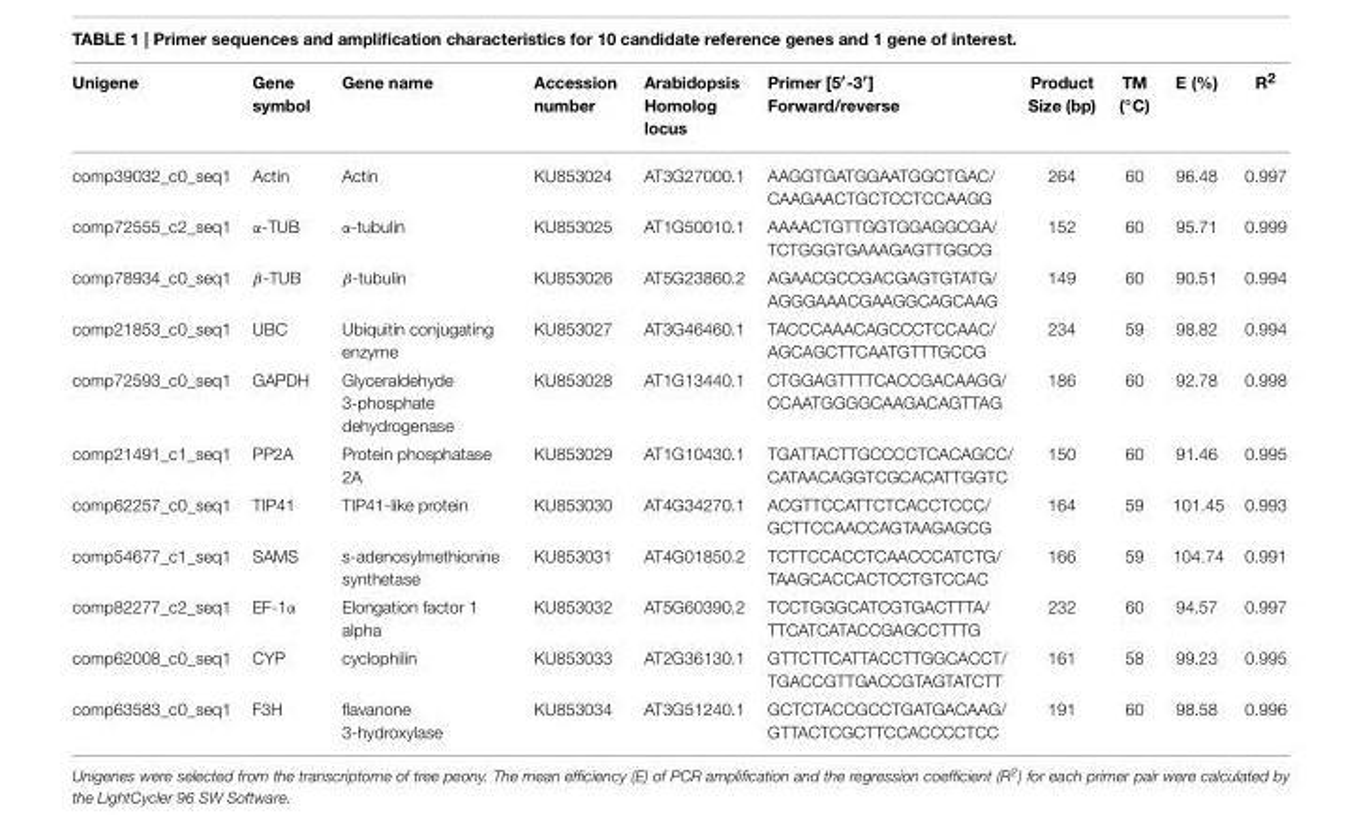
<table><thead><tr><td>Unigene</td><td>Gene symbol</td><td>Gene name</td><td>Accession number</td><td>Arabidopsis Homolog locus</td><td>Primer [5′-3′] Forward/reverse</td><td>Product Size (bp)</td><td>TM (◦C)</td><td>E (%)</td><td>R<sup>2</sup></td></tr></thead><tbody><tr><td>comp39032_c0_seq1</td><td>Actin</td><td>Actin</td><td>KU853024</td><td>AT3G27000.1</td><td>AAGGTGATGGAATGGCTGAC/ CAAGAACTGCTCCTCCAAGG</td><td>264</td><td>60</td><td>96.48</td><td>0.997</td></tr><tr><td>comp72555_c2_seq1</td><td>α-TUB</td><td>α-tubulin</td><td>KU853025</td><td>AT1G50010.1</td><td>AAAACTGTTGGTGGAGGCGA/ TCTGGGTGAAAGAGTTGGCG</td><td>152</td><td>60</td><td>95.71</td><td>0.999</td></tr><tr><td>comp78934_c0_seq1</td><td>β-TUB</td><td>β-tubulin</td><td>KU853026</td><td>AT5G23860.2</td><td>AGAACGCCGACGAGTGTATG/ AGGGAAACGAAGGCAGCAAG</td><td>149</td><td>60</td><td>90.51</td><td>0.994</td></tr><tr><td>comp21853_c0_seq1</td><td>UBC</td><td>Ubiquitin conjugating enzyme</td><td>KU853027</td><td>AT3G46460.1</td><td>TACCCAAACAGCCCTCCAAC/ AGCAGCTTCAATGTTTGCCG</td><td>234</td><td>59</td><td>98.82</td><td>0.994</td></tr><tr><td>comp72593_c0_seq1</td><td>GAPDH</td><td>Glyceraldehyde 3-phosphate dehydrogenase</td><td>KU853028</td><td>AT1G13440.1</td><td>CTGGAGTTTTCACCGACAAGG/ CCAATGGGGCAAGACAGTTAG</td><td>186</td><td>60</td><td>92.78</td><td>0.998</td></tr><tr><td>comp21491_c1_seq1</td><td>PP2A</td><td>Protein phosphatase 2A</td><td>KU853029</td><td>AT1G10430.1</td><td>TGATTACTTGCCCCTCACAGCC/ CATAACAGGTCGCACATTGGTC</td><td>150</td><td>60</td><td>91.46</td><td>0.995</td></tr><tr><td>comp62257_c0_seq1</td><td>TIP41</td><td>TIP41-like protein</td><td>KU853030</td><td>AT4G34270.1</td><td>ACGTTCCATTCTCACCTCCC/ GCTTCCAACCAGTAAGAGCG</td><td>164</td><td>59</td><td>101.45</td><td>0.993</td></tr><tr><td>comp54677_c1_seq1</td><td>SAMS</td><td>s-adenosylmethionine synthetase</td><td>KU853031</td><td>AT4G01850.2</td><td>TCTTCCACCTCAACCCATCTG/ TAAGCACCACTCCTGTCCAC</td><td>166</td><td>59</td><td>104.74</td><td>0.991</td></tr><tr><td>comp82277_c2_seq1</td><td>EF-1α</td><td>Elongation factor 1 alpha</td><td>KU853032</td><td>AT5G60390.2</td><td>TCCTGGGCATCGTGACTTTA/ TTCATCATACCGAGCCTTTG</td><td>232</td><td>60</td><td>94.57</td><td>0.997</td></tr><tr><td>comp62008_c0_seq1</td><td>CYP</td><td>cyclophilin</td><td>KU853033</td><td>AT2G36130.1</td><td>GTTCTTCATTACCTTGGCACCT/ TGACCGTTGACCGTAGTATCTT</td><td>161</td><td>58</td><td>99.23</td><td>0.995</td></tr><tr><td>comp63583_c0_seq1</td><td>F3H</td><td>flavanone 3-hydroxylase</td><td>KU853034</td><td>AT3G51240.1</td><td>GCTCTACCGCCTGATGACAAG/ GTTACTCGCTTCCACCCCTCC</td><td>191</td><td>60</td><td>98.58</td><td>0.996</td></tr></tbody></table>